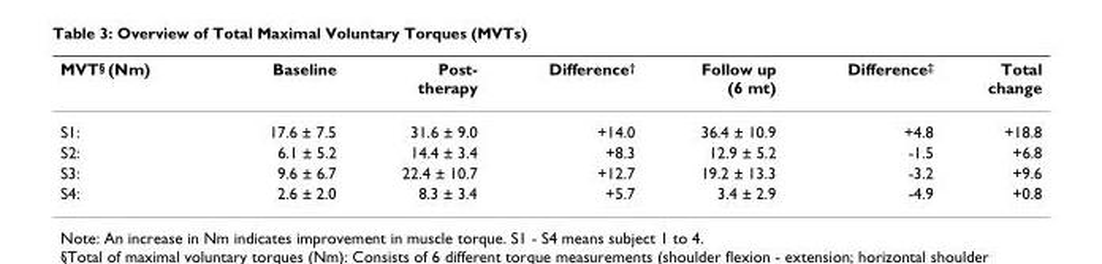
<table><thead><tr><td>MVT<sup>§</sup> (Nm)</td><td>Baseline</td><td>Post- therapy</td><td>Difference<sup>†</sup></td><td>Follow up (6 mt)</td><td>Difference<sup>‡</sup></td><td>Total change</td></tr></thead><tbody><tr><td>S1:</td><td>17.6 ± 7.5</td><td>31.6 ± 9.0</td><td>+14.0</td><td>36.4 ± 10.9</td><td>+4.8</td><td>+18.8</td></tr><tr><td>S2:</td><td>6.1 ± 5.2</td><td>14.4 ± 3.4</td><td>+8.3</td><td>12.9 ± 5.2</td><td>-1.5</td><td>+6.8</td></tr><tr><td>S3:</td><td>9.6 ± 6.7</td><td>22.4 ± 10.7</td><td>+12.7</td><td>19.2 ± 13.3</td><td>-3.2</td><td>+9.6</td></tr><tr><td>S4:</td><td>2.6 ± 2.0</td><td>8.3 ± 3.4</td><td>+5.7</td><td>3.4 ± 2.9</td><td>-4.9</td><td>+0.8</td></tr></tbody></table>